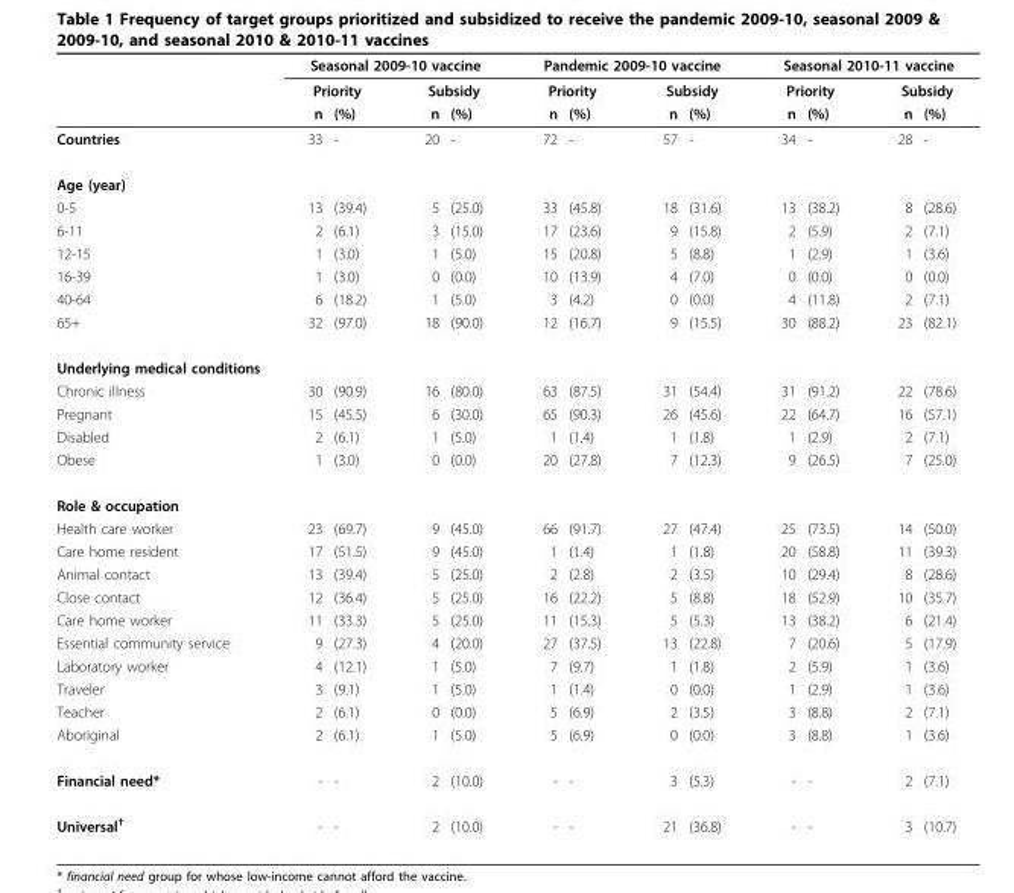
<table><thead><tr><td rowspan="3"></td><td colspan="4">Seasonal 2009-10 vaccine</td><td colspan="4">Pandemic 2009-10 vaccine</td><td colspan="4">Seasonal 2010-11 vaccine</td></tr><tr><td colspan="2">Priority</td><td colspan="2">Subsidy</td><td colspan="2">Priority</td><td colspan="2">Subsidy</td><td colspan="2">Priority</td><td colspan="2">Subsidy</td></tr><tr><td>n</td><td>(%)</td><td>n</td><td>(%)</td><td>n</td><td>(%)</td><td>n</td><td>(%)</td><td>n</td><td>(%)</td><td>n</td><td>(%)</td></tr></thead><tbody><tr><td>Countries</td><td>33</td><td>-</td><td>20</td><td>-</td><td>72</td><td>-</td><td>57</td><td>-</td><td>34</td><td>-</td><td>28</td><td>-</td></tr><tr><td colspan="13">Age (year)</td></tr><tr><td>0-5</td><td>13</td><td>(39.4)</td><td>5</td><td>(25.0)</td><td>33</td><td>(45.8)</td><td>18</td><td>(31.6)</td><td>13</td><td>(38.2)</td><td>8</td><td>(28.6)</td></tr><tr><td>6-11</td><td>2</td><td>(6.1)</td><td>3</td><td>(15.0)</td><td>17</td><td>(23.6)</td><td>9</td><td>(15.8)</td><td>2</td><td>(5.9)</td><td>2</td><td>(7.1)</td></tr><tr><td>12-15</td><td>1</td><td>(3.0)</td><td>1</td><td>(5.0)</td><td>15</td><td>(20.8)</td><td>5</td><td>(8.8)</td><td>1</td><td>(2.9)</td><td>1</td><td>(3.6)</td></tr><tr><td>16-39</td><td>1</td><td>(3.0)</td><td>0</td><td>(0.0)</td><td>10</td><td>(13.9)</td><td>4</td><td>(7.0)</td><td>0</td><td>(0.0)</td><td>0</td><td>(0.0)</td></tr><tr><td>40-64</td><td>6</td><td>(18.2)</td><td>1</td><td>(5.0)</td><td>3</td><td>(4.2)</td><td>0</td><td>(0.0)</td><td>4</td><td>(11.8)</td><td>2</td><td>(7.1)</td></tr><tr><td>65+</td><td>32</td><td>(97.0)</td><td>18</td><td>(90.0)</td><td>12</td><td>(16.7)</td><td>9</td><td>(15.5)</td><td>30</td><td>(88.2)</td><td>23</td><td>(82.1)</td></tr><tr><td colspan="13">Underlying medical conditions</td></tr><tr><td>Chronic illness</td><td>30</td><td>(90.9)</td><td>16</td><td>(80.0)</td><td>63</td><td>(87.5)</td><td>31</td><td>(54.4)</td><td>31</td><td>(91.2)</td><td>22</td><td>(78.6)</td></tr><tr><td>Pregnant</td><td>15</td><td>(45.5)</td><td>6</td><td>(30.0)</td><td>65</td><td>(90.3)</td><td>26</td><td>(45.6)</td><td>22</td><td>(64.7)</td><td>16</td><td>(57.1)</td></tr><tr><td>Disabled</td><td>2</td><td>(6.1)</td><td>1</td><td>(5.0)</td><td>1</td><td>(1.4)</td><td>1</td><td>(1.8)</td><td>1</td><td>(2.9)</td><td>2</td><td>(7.1)</td></tr><tr><td>Obese</td><td>1</td><td>(3.0)</td><td>0</td><td>(0.0)</td><td>20</td><td>(27.8)</td><td>7</td><td>(12.3)</td><td>9</td><td>(26.5)</td><td>7</td><td>(25.0)</td></tr><tr><td colspan="13">Role &amp; occupation</td></tr><tr><td>Health care worker</td><td>23</td><td>(69.7)</td><td>9</td><td>(45.0)</td><td>66</td><td>(91.7)</td><td>27</td><td>(47.4)</td><td>25</td><td>(73.5)</td><td>14</td><td>(50.0)</td></tr><tr><td>Care home resident</td><td>17</td><td>(51.5)</td><td>9</td><td>(45.0)</td><td>1</td><td>(1.4)</td><td>1</td><td>(1.8)</td><td>20</td><td>(58.8)</td><td>11</td><td>(39.3)</td></tr><tr><td>Animal contact</td><td>13</td><td>(39.4)</td><td>5</td><td>(25.0)</td><td>2</td><td>(2.8)</td><td>2</td><td>(3.5)</td><td>10</td><td>(29.4)</td><td>8</td><td>(28.6)</td></tr><tr><td>Close contact</td><td>12</td><td>(36.4)</td><td>5</td><td>(25.0)</td><td>16</td><td>(22.2)</td><td>5</td><td>(8.8)</td><td>18</td><td>(52.9)</td><td>10</td><td>(35.7)</td></tr><tr><td>Care home worker</td><td>11</td><td>(33.3)</td><td>5</td><td>(25.0)</td><td>11</td><td>(15.3)</td><td>5</td><td>(5.3)</td><td>13</td><td>(38.2)</td><td>6</td><td>(21.4)</td></tr><tr><td>Essential community service</td><td>9</td><td>(27.3)</td><td>4</td><td>(20.0)</td><td>27</td><td>(37.5)</td><td>13</td><td>(22.8)</td><td>7</td><td>(20.6)</td><td>5</td><td>(17.9)</td></tr><tr><td>Laboratory worker</td><td>4</td><td>(12.1)</td><td>1</td><td>(5.0)</td><td>7</td><td>(9.7)</td><td>1</td><td>(1.8)</td><td>2</td><td>(5.9)</td><td>1</td><td>(3.6)</td></tr><tr><td>Traveler</td><td>3</td><td>(9.1)</td><td>1</td><td>(5.0)</td><td>1</td><td>(1.4)</td><td>0</td><td>(0.0)</td><td>1</td><td>(2.9)</td><td>1</td><td>(3.6)</td></tr><tr><td>Teacher</td><td>2</td><td>(6.1)</td><td>0</td><td>(0.0)</td><td>5</td><td>(6.9)</td><td>2</td><td>(3.5)</td><td>3</td><td>(8.8)</td><td>2</td><td>(7.1)</td></tr><tr><td>Aboriginal</td><td>2</td><td>(6.1)</td><td>1</td><td>(5.0)</td><td>5</td><td>(6.9)</td><td>0</td><td>(0.0)</td><td>3</td><td>(8.8)</td><td>1</td><td>(3.6)</td></tr><tr><td>Financial need*</td><td>-</td><td>-</td><td>2</td><td>(10.0)</td><td>-</td><td>-</td><td>3</td><td>(5.3)</td><td>-</td><td>-</td><td>2</td><td>(7.1)</td></tr><tr><td>Universal<sup>†</sup></td><td>-</td><td>-</td><td>2</td><td>(10.0)</td><td>-</td><td>-</td><td>21</td><td>(36.8)</td><td>-</td><td>-</td><td>3</td><td>(10.7)</td></tr></tbody></table>